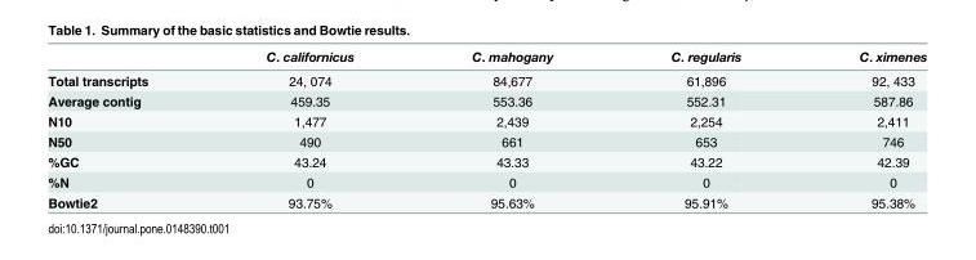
<table><thead><tr><td></td><td>C. californicus</td><td>C. mahogany</td><td>C. regularis</td><td>C. ximenes</td></tr></thead><tbody><tr><td>Total transcripts</td><td>24, 074</td><td>84,677</td><td>61,896</td><td>92, 433</td></tr><tr><td>Average contig</td><td>459.35</td><td>553.36</td><td>552.31</td><td>587.86</td></tr><tr><td>N10</td><td>1,477</td><td>2,439</td><td>2,254</td><td>2,411</td></tr><tr><td>N50</td><td>490</td><td>661</td><td>653</td><td>746</td></tr><tr><td>%GC</td><td>43.24</td><td>43.33</td><td>43.22</td><td>42.39</td></tr><tr><td>%N</td><td>0</td><td>0</td><td>0</td><td>0</td></tr><tr><td>Bowtie2</td><td>93.75%</td><td>95.63%</td><td>95.91%</td><td>95.38%</td></tr></tbody></table>